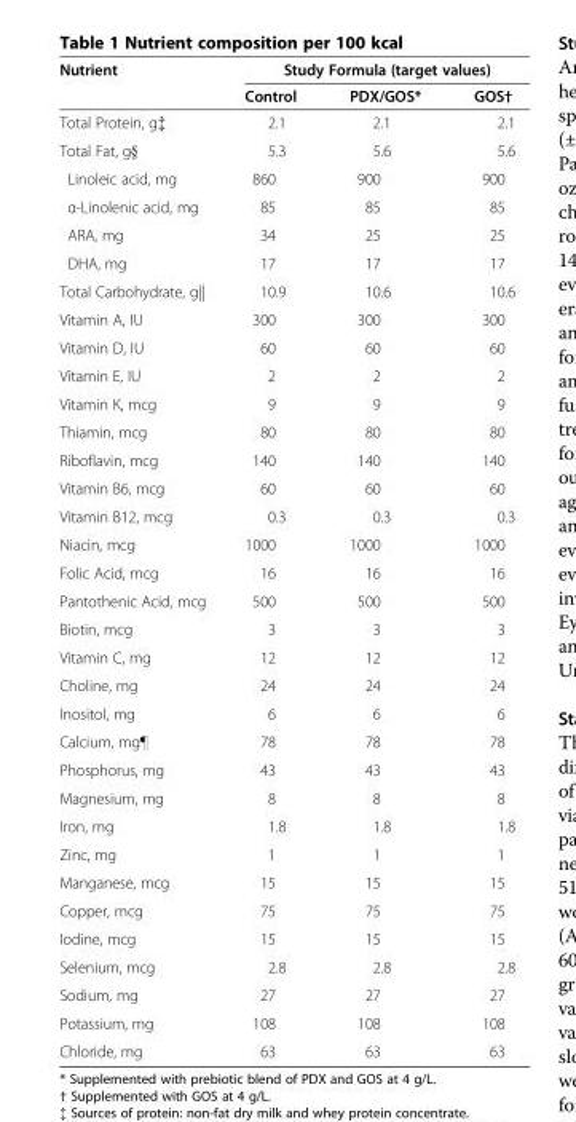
<table><thead><tr><td rowspan="2">Nutrient</td><td colspan="3">Study Formula (target values)</td></tr><tr><td>Control</td><td>PDX/GOS*</td><td>GOS†</td></tr></thead><tbody><tr><td>Total Protein, g‡</td><td>2.1</td><td>2.1</td><td>2.1</td></tr><tr><td>Total Fat, g§</td><td>5.3</td><td>5.6</td><td>5.6</td></tr><tr><td>Linoleic acid, mg</td><td>860</td><td>900</td><td>900</td></tr><tr><td>α-Linolenic acid, mg</td><td>85</td><td>85</td><td>85</td></tr><tr><td>ARA, mg</td><td>34</td><td>25</td><td>25</td></tr><tr><td>DHA, mg</td><td>17</td><td>17</td><td>17</td></tr><tr><td>Total Carbohydrate, g||</td><td>10.9</td><td>10.6</td><td>10.6</td></tr><tr><td>Vitamin A, IU</td><td>300</td><td>300</td><td>300</td></tr><tr><td>Vitamin D, IU</td><td>60</td><td>60</td><td>60</td></tr><tr><td>Vitamin E, IU</td><td>2</td><td>2</td><td>2</td></tr><tr><td>Vitamin K, mcg</td><td>9</td><td>9</td><td>9</td></tr><tr><td>Thiamin, mcg</td><td>80</td><td>80</td><td>80</td></tr><tr><td>Riboflavin, mcg</td><td>140</td><td>140</td><td>140</td></tr><tr><td>Vitamin B6, mcg</td><td>60</td><td>60</td><td>60</td></tr><tr><td>Vitamin B12, mcg</td><td>0.3</td><td>0.3</td><td>0.3</td></tr><tr><td>Niacin, mcg</td><td>1000</td><td>1000</td><td>1000</td></tr><tr><td>Folic Acid, mcg</td><td>16</td><td>16</td><td>16</td></tr><tr><td>Pantothenic Acid, mcg</td><td>500</td><td>500</td><td>500</td></tr><tr><td>Biotin, mcg</td><td>3</td><td>3</td><td>3</td></tr><tr><td>Vitamin C, mg</td><td>12</td><td>12</td><td>12</td></tr><tr><td>Choline, mg</td><td>24</td><td>24</td><td>24</td></tr><tr><td>Inositol, mg</td><td>6</td><td>6</td><td>6</td></tr><tr><td>Calcium, mg¶</td><td>78</td><td>78</td><td>78</td></tr><tr><td>Phosphorus, mg</td><td>43</td><td>43</td><td>43</td></tr><tr><td>Magnesium, mg</td><td>8</td><td>8</td><td>8</td></tr><tr><td>Iron, mg</td><td>1.8</td><td>1.8</td><td>1.8</td></tr><tr><td>Zinc, mg</td><td>1</td><td>1</td><td>1</td></tr><tr><td>Manganese, mcg</td><td>15</td><td>15</td><td>15</td></tr><tr><td>Copper, mcg</td><td>75</td><td>75</td><td>75</td></tr><tr><td>Iodine, mcg</td><td>15</td><td>15</td><td>15</td></tr><tr><td>Selenium, mcg</td><td>2.8</td><td>2.8</td><td>2.8</td></tr><tr><td>Sodium, mg</td><td>27</td><td>27</td><td>27</td></tr><tr><td>Potassium, mg</td><td>108</td><td>108</td><td>108</td></tr><tr><td>Chloride, mg</td><td>63</td><td>63</td><td>63</td></tr></tbody></table>